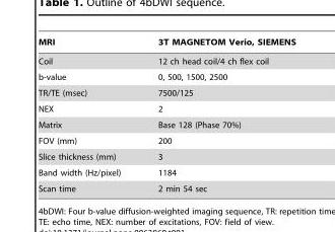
<table><thead><tr><td>MRI</td><td>3T MAGNETOM Verio, SIEMENS</td></tr></thead><tbody><tr><td>Coil</td><td>12 ch head coil/4 ch flex coil</td></tr><tr><td>b-value</td><td>0, 500, 1500, 2500</td></tr><tr><td>TR/TE (msec)</td><td>7500/125</td></tr><tr><td>NEX</td><td>2</td></tr><tr><td>Matrix</td><td>Base 128 (Phase 70%)</td></tr><tr><td>FOV (mm)</td><td>200</td></tr><tr><td>Slice thickness (mm)</td><td>3</td></tr><tr><td>Band width (Hz/pixel)</td><td>1184</td></tr><tr><td>Scan time</td><td>2 min 54 sec</td></tr></tbody></table>